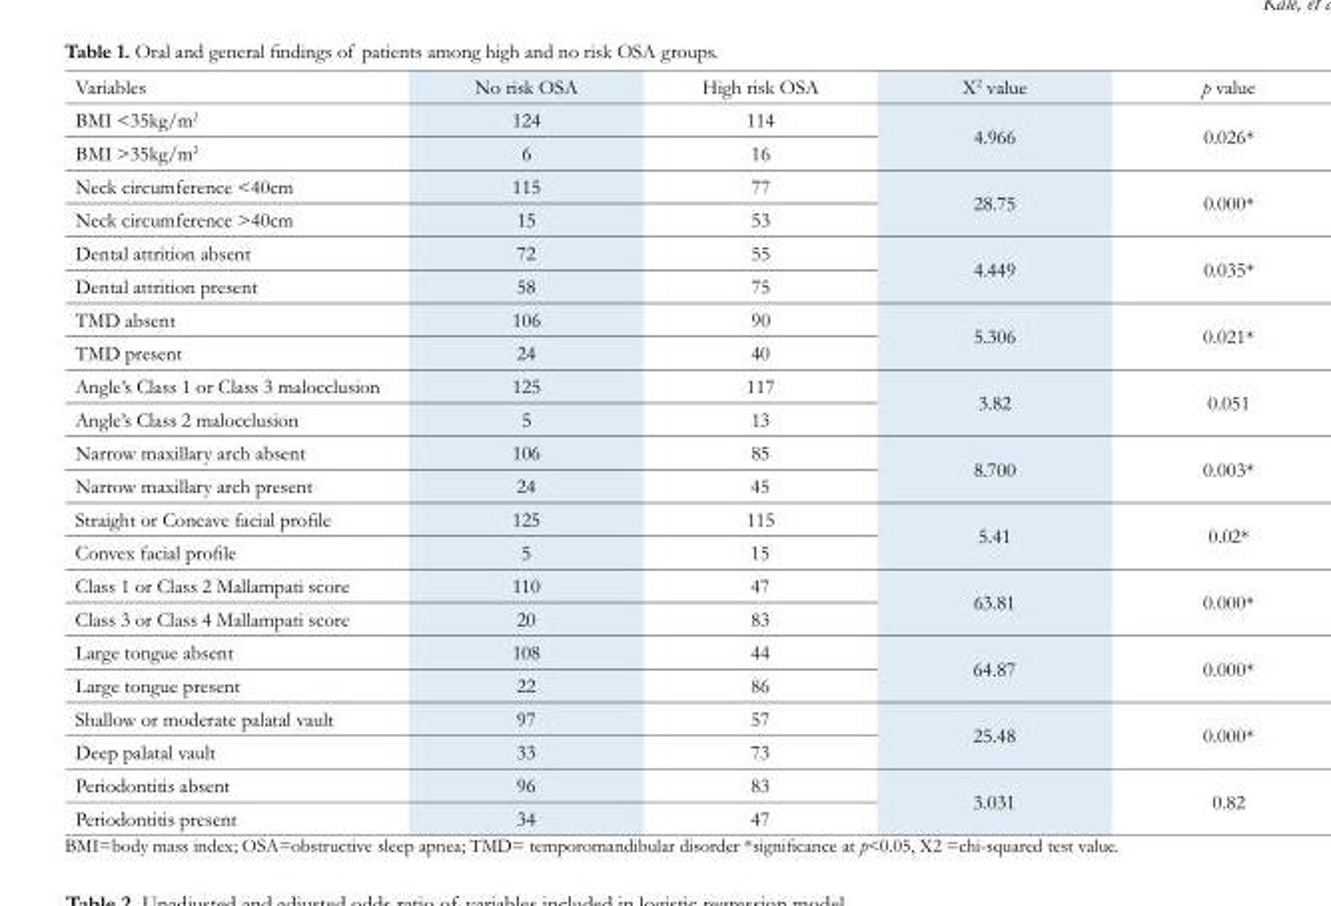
<table><thead><tr><td>Variables</td><td>No risk OSA</td><td>High risk OSA</td><td>X<sup>2</sup> value</td><td>p value</td></tr></thead><tbody><tr><td>BMI &lt;35kg/m<sup>2</sup></td><td>124</td><td>114</td><td rowspan="2">4.966</td><td rowspan="2">0.026*</td></tr><tr><td>BMI &gt;35kg/m<sup>2</sup></td><td>6</td><td>16</td></tr><tr><td>Neck circumference &lt;40cm</td><td>115</td><td>77</td><td rowspan="2">28.75</td><td rowspan="2">0.000*</td></tr><tr><td>Neck circumference &gt;40cm</td><td>15</td><td>53</td></tr><tr><td>Dental attrition absent</td><td>72</td><td>55</td><td rowspan="2">4.449</td><td rowspan="2">0.035*</td></tr><tr><td>Dental attrition present</td><td>58</td><td>75</td></tr><tr><td>TMD absent</td><td>106</td><td>90</td><td rowspan="2">5.306</td><td rowspan="2">0.021*</td></tr><tr><td>TMD present</td><td>24</td><td>40</td></tr><tr><td>Angle’s Class 1 or Class 3 malocclusion</td><td>125</td><td>117</td><td rowspan="2">3.82</td><td rowspan="2">0.051</td></tr><tr><td>Angle’s Class 2 malocclusion</td><td>5</td><td>13</td></tr><tr><td>Narrow maxillary arch absent</td><td>106</td><td>85</td><td rowspan="2">8.700</td><td rowspan="2">0.003*</td></tr><tr><td>Narrow maxillary arch present</td><td>24</td><td>45</td></tr><tr><td>Straight or Concave facial profile</td><td>125</td><td>115</td><td rowspan="2">5.41</td><td rowspan="2">0.02*</td></tr><tr><td>Convex facial profile</td><td>5</td><td>15</td></tr><tr><td>Class 1 or Class 2 Mallampati score</td><td>110</td><td>47</td><td rowspan="2">63.81</td><td rowspan="2">0.000*</td></tr><tr><td>Class 3 or Class 4 Mallampati score</td><td>20</td><td>83</td></tr><tr><td>Large tongue absent</td><td>108</td><td>44</td><td rowspan="2">64.87</td><td rowspan="2">0.000*</td></tr><tr><td>Large tongue present</td><td>22</td><td>86</td></tr><tr><td>Shallow or moderate palatal vault</td><td>97</td><td>57</td><td rowspan="2">25.48</td><td rowspan="2">0.000*</td></tr><tr><td>Deep palatal vault</td><td>33</td><td>73</td></tr><tr><td>Periodontitis absent</td><td>96</td><td>83</td><td rowspan="2">3.031</td><td rowspan="2">0.82</td></tr><tr><td>Periodontitis present</td><td>34</td><td>47</td></tr></tbody></table>